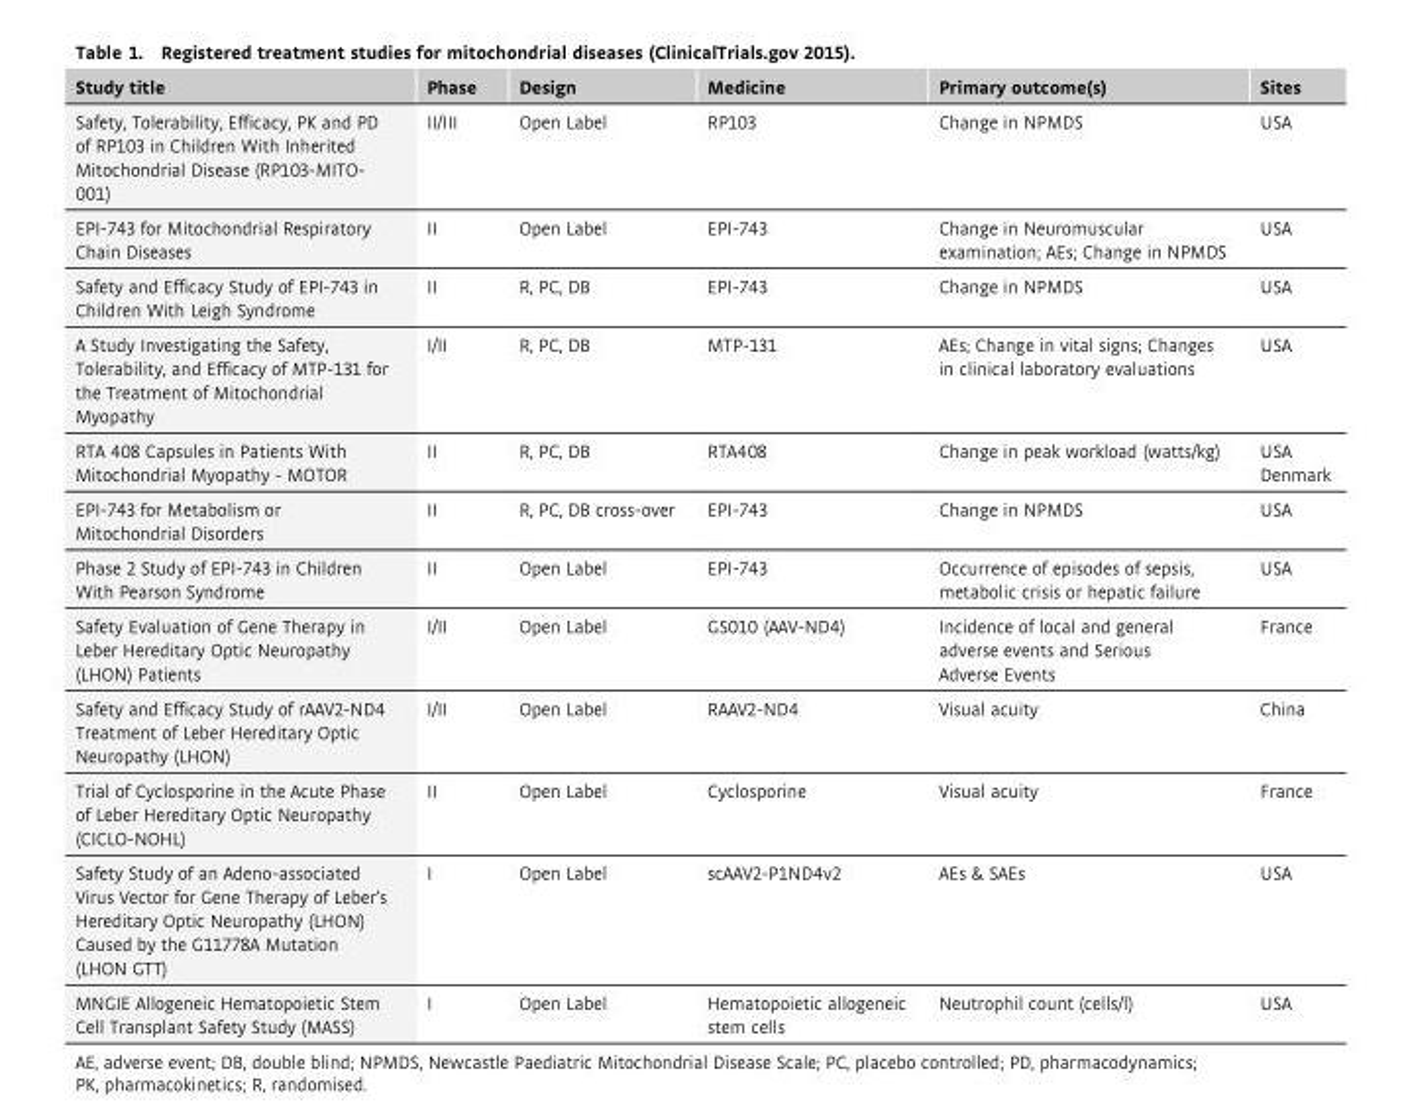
<table><thead><tr><td>Study title</td><td>Phase</td><td>Design</td><td>Medicine</td><td>Primary outcome(s)</td><td>Sites</td></tr></thead><tbody><tr><td>Safety, Tolerability, Efficacy, PK and PD of RP103 in Children With Inherited Mitochondrial Disease (RP103-MITO- 001)</td><td>II/III</td><td>Open Label</td><td>RP103</td><td>Change in NPMDS</td><td>USA</td></tr><tr><td>EPI-743 for Mitochondrial Respiratory Chain Diseases</td><td>II</td><td>Open Label</td><td>EPI-743</td><td>Change in Neuromuscular examination; AEs; Change in NPMDS</td><td>USA</td></tr><tr><td>Safety and Efficacy Study of EPI-743 in Children With Leigh Syndrome</td><td>II</td><td>R, PC, DB</td><td>EPI-743</td><td>Change in NPMDS</td><td>USA</td></tr><tr><td>A Study Investigating the Safety, Tolerability, and Efficacy of MTP-131 for the Treatment of Mitochondrial Myopathy</td><td>I/II</td><td>R, PC, DB</td><td>MTP-131</td><td>AEs; Change in vital signs; Changes in clinical laboratory evaluations</td><td>USA</td></tr><tr><td>RTA 408 Capsules in Patients With Mitochondrial Myopathy - MOTOR</td><td>II</td><td>R, PC, DB</td><td>RTA408</td><td>Change in peak workload (watts/kg)</td><td>USA Denmark</td></tr><tr><td>EPI-743 for Metabolism or Mitochondrial Disorders</td><td>II</td><td>R, PC, DB cross-over</td><td>EPI-743</td><td>Change in NPMDS</td><td>USA</td></tr><tr><td>Phase 2 Study of EPI-743 in Children With Pearson Syndrome</td><td>II</td><td>Open Label</td><td>EPI-743</td><td>Occurrence of episodes of sepsis, metabolic crisis or hepatic failure</td><td>USA</td></tr><tr><td>Safety Evaluation of Gene Therapy in Leber Hereditary Optic Neuropathy (LHON) Patients</td><td>I/II</td><td>Open Label</td><td>GS010 (AAV-ND4)</td><td>Incidence of local and general adverse events and Serious Adverse Events</td><td>France</td></tr><tr><td>Safety and Efficacy Study of rAAV2-ND4 Treatment of Leber Hereditary Optic Neuropathy (LHON)</td><td>I/II</td><td>Open Label</td><td>RAAV2-ND4</td><td>Visual acuity</td><td>China</td></tr><tr><td>Trial of Cyclosporine in the Acute Phase of Leber Hereditary Optic Neuropathy (CICLO-NOHL)</td><td>II</td><td>Open Label</td><td>Cyclosporine</td><td>Visual acuity</td><td>France</td></tr><tr><td>Safety Study of an Adeno-associated Virus Vector for Gene Therapy of Leber’s Hereditary Optic Neuropathy (LHON) Caused by the G11778A Mutation (LHON GTT)</td><td>I</td><td>Open Label</td><td>scAAV2-P1ND4v2</td><td>AEs &amp; SAEs</td><td>USA</td></tr><tr><td>MNGIE Allogeneic Hematopoietic Stem Cell Transplant Safety Study (MASS)</td><td>I</td><td>Open Label</td><td>Hematopoietic allogeneic stem cells</td><td>Neutrophil count (cells/l)</td><td>USA</td></tr></tbody></table>